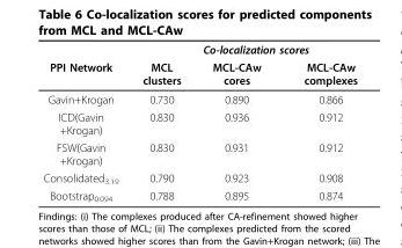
<table><thead><tr><td rowspan="2">PPI Network</td><td colspan="3">Co-localization scores</td></tr><tr><td>MCL clusters</td><td>MCL-CAw cores</td><td>MCL-CAw complexes</td></tr></thead><tbody><tr><td>Gavin+Krogan</td><td>0.730</td><td>0.890</td><td>0.866</td></tr><tr><td>ICD(Gavin +Krogan)</td><td>0.830</td><td>0.936</td><td>0.912</td></tr><tr><td>FSW(Gavin +Krogan)</td><td>0.830</td><td>0.931</td><td>0.912</td></tr><tr><td>Consolidated<sub>3.19</sub></td><td>0.790</td><td>0.923</td><td>0.908</td></tr><tr><td>Bootstrap<sub>0.094</sub></td><td>0.788</td><td>0.895</td><td>0.874</td></tr></tbody></table>